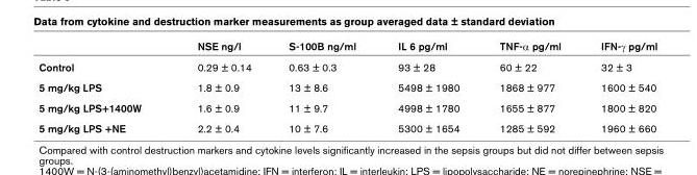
<table><thead><tr><td></td><td>NSE ng/l</td><td>S-100B ng/ml</td><td>IL 6 pg/ml</td><td>TNF-α pg/ml</td><td>IFN-γ pg/ml</td></tr></thead><tbody><tr><td>Control</td><td>0.29 ± 0.14</td><td>0.63 ± 0.3</td><td>93 ± 28</td><td>60 ± 22</td><td>32 ± 3</td></tr><tr><td>5 mg/kg LPS</td><td>1.8 ± 0.9</td><td>13 ± 8.6</td><td>5498 ± 1980</td><td>1868 ± 977</td><td>1600 ± 540</td></tr><tr><td>5 mg/kg LPS+1400W</td><td>1.6 ± 0.9</td><td>11 ± 9.7</td><td>4998 ± 1780</td><td>1655 ± 877</td><td>1800 ± 820</td></tr><tr><td>5 mg/kg LPS +NE</td><td>2.2 ± 0.4</td><td>10 ± 7.6</td><td>5300 ± 1654</td><td>1285 ± 592</td><td>1960 ± 660</td></tr></tbody></table>